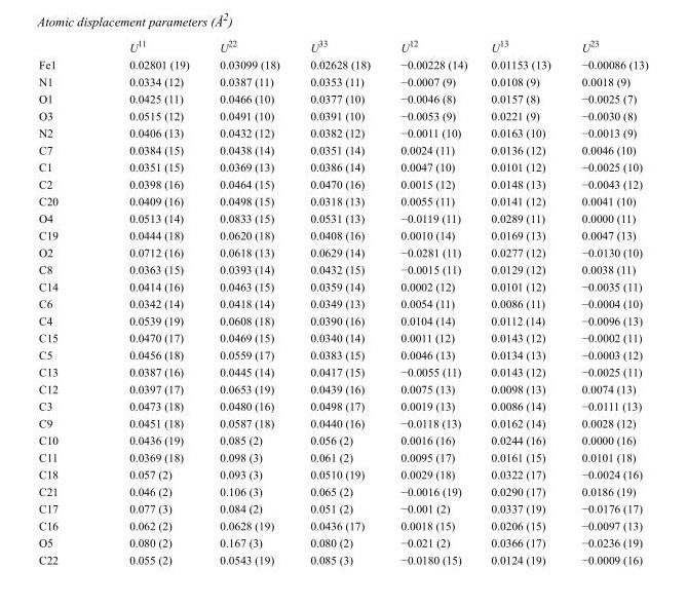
<table><thead><tr><td></td><td>U<sup>11</sup></td><td>U<sup>22</sup></td><td>U<sup>33</sup></td><td>U<sup>12</sup></td><td>U<sup>13</sup></td><td>U<sup>23</sup></td></tr></thead><tbody><tr><td>Fe1</td><td>0.02801 (19)</td><td>0.03099 (18)</td><td>0.02628 (18)</td><td>−0.00228 (14)</td><td>0.01153 (13)</td><td>−0.00086 (13)</td></tr><tr><td>N1</td><td>0.0334 (12)</td><td>0.0387 (11)</td><td>0.0353 (11)</td><td>−0.0007 (9)</td><td>0.0108 (9)</td><td>0.0018 (9)</td></tr><tr><td>O1</td><td>0.0425 (11)</td><td>0.0466 (10)</td><td>0.0377 (10)</td><td>−0.0046 (8)</td><td>0.0157 (8)</td><td>−0.0025 (7)</td></tr><tr><td>O3</td><td>0.0515 (12)</td><td>0.0491 (10)</td><td>0.0391 (10)</td><td>−0.0053 (9)</td><td>0.0221 (9)</td><td>−0.0030 (8)</td></tr><tr><td>N2</td><td>0.0406 (13)</td><td>0.0432 (12)</td><td>0.0382 (12)</td><td>−0.0011 (10)</td><td>0.0163 (10)</td><td>−0.0013 (9)</td></tr><tr><td>C7</td><td>0.0384 (15)</td><td>0.0438 (14)</td><td>0.0351 (14)</td><td>0.0024 (11)</td><td>0.0136 (12)</td><td>0.0046 (10)</td></tr><tr><td>C1</td><td>0.0351 (15)</td><td>0.0369 (13)</td><td>0.0386 (14)</td><td>0.0047 (10)</td><td>0.0101 (12)</td><td>−0.0025 (10)</td></tr><tr><td>C2</td><td>0.0398 (16)</td><td>0.0464 (15)</td><td>0.0470 (16)</td><td>0.0015 (12)</td><td>0.0148 (13)</td><td>−0.0043 (12)</td></tr><tr><td>C20</td><td>0.0409 (16)</td><td>0.0498 (15)</td><td>0.0318 (13)</td><td>0.0055 (11)</td><td>0.0141 (12)</td><td>0.0041 (10)</td></tr><tr><td>O4</td><td>0.0513 (14)</td><td>0.0833 (15)</td><td>0.0531 (13)</td><td>−0.0119 (11)</td><td>0.0289 (11)</td><td>0.0000 (11)</td></tr><tr><td>C19</td><td>0.0444 (18)</td><td>0.0620 (18)</td><td>0.0408 (16)</td><td>0.0010 (14)</td><td>0.0169 (13)</td><td>0.0047 (13)</td></tr><tr><td>O2</td><td>0.0712 (16)</td><td>0.0618 (13)</td><td>0.0629 (14)</td><td>−0.0281 (11)</td><td>0.0277 (12)</td><td>−0.0130 (10)</td></tr><tr><td>C8</td><td>0.0363 (15)</td><td>0.0393 (14)</td><td>0.0432 (15)</td><td>−0.0015 (11)</td><td>0.0129 (12)</td><td>0.0038 (11)</td></tr><tr><td>C14</td><td>0.0414 (16)</td><td>0.0463 (15)</td><td>0.0359 (14)</td><td>0.0002 (12)</td><td>0.0101 (12)</td><td>−0.0035 (11)</td></tr><tr><td>C6</td><td>0.0342 (14)</td><td>0.0418 (14)</td><td>0.0349 (13)</td><td>0.0054 (11)</td><td>0.0086 (11)</td><td>−0.0004 (10)</td></tr><tr><td>C4</td><td>0.0539 (19)</td><td>0.0608 (18)</td><td>0.0390 (16)</td><td>0.0104 (14)</td><td>0.0112 (14)</td><td>−0.0096 (13)</td></tr><tr><td>C15</td><td>0.0470 (17)</td><td>0.0469 (15)</td><td>0.0340 (14)</td><td>0.0011 (12)</td><td>0.0143 (12)</td><td>−0.0002 (11)</td></tr><tr><td>C5</td><td>0.0456 (18)</td><td>0.0559 (17)</td><td>0.0383 (15)</td><td>0.0046 (13)</td><td>0.0134 (13)</td><td>−0.0003 (12)</td></tr><tr><td>C13</td><td>0.0387 (16)</td><td>0.0445 (14)</td><td>0.0417 (15)</td><td>−0.0055 (11)</td><td>0.0143 (12)</td><td>−0.0025 (11)</td></tr><tr><td>C12</td><td>0.0397 (17)</td><td>0.0653 (19)</td><td>0.0439 (16)</td><td>0.0075 (13)</td><td>0.0098 (13)</td><td>0.0074 (13)</td></tr><tr><td>C3</td><td>0.0473 (18)</td><td>0.0480 (16)</td><td>0.0498 (17)</td><td>0.0019 (13)</td><td>0.0086 (14)</td><td>−0.0111 (13)</td></tr><tr><td>C9</td><td>0.0451 (18)</td><td>0.0587 (18)</td><td>0.0440 (16)</td><td>−0.0118 (13)</td><td>0.0162 (14)</td><td>0.0028 (12)</td></tr><tr><td>C10</td><td>0.0436 (19)</td><td>0.085 (2)</td><td>0.056 (2)</td><td>0.0016 (16)</td><td>0.0244 (16)</td><td>0.0000 (16)</td></tr><tr><td>C11</td><td>0.0369 (18)</td><td>0.098 (3)</td><td>0.061 (2)</td><td>0.0095 (17)</td><td>0.0161 (15)</td><td>0.0101 (18)</td></tr><tr><td>C18</td><td>0.057 (2)</td><td>0.093 (3)</td><td>0.0510 (19)</td><td>0.0029 (18)</td><td>0.0322 (17)</td><td>−0.0024 (16)</td></tr><tr><td>C21</td><td>0.046 (2)</td><td>0.106 (3)</td><td>0.065 (2)</td><td>−0.0016 (19)</td><td>0.0290 (17)</td><td>0.0186 (19)</td></tr><tr><td>C17</td><td>0.077 (3)</td><td>0.084 (2)</td><td>0.051 (2)</td><td>−0.001 (2)</td><td>0.0337 (19)</td><td>−0.0176 (17)</td></tr><tr><td>C16</td><td>0.062 (2)</td><td>0.0628 (19)</td><td>0.0436 (17)</td><td>0.0018 (15)</td><td>0.0206 (15)</td><td>−0.0097 (13)</td></tr><tr><td>O5</td><td>0.080 (2)</td><td>0.167 (3)</td><td>0.080 (2)</td><td>−0.021 (2)</td><td>0.0366 (17)</td><td>−0.0236 (19)</td></tr><tr><td>C22</td><td>0.055 (2)</td><td>0.0543 (19)</td><td>0.085 (3)</td><td>−0.0180 (15)</td><td>0.0124 (19)</td><td>−0.0009 (16)</td></tr></tbody></table>